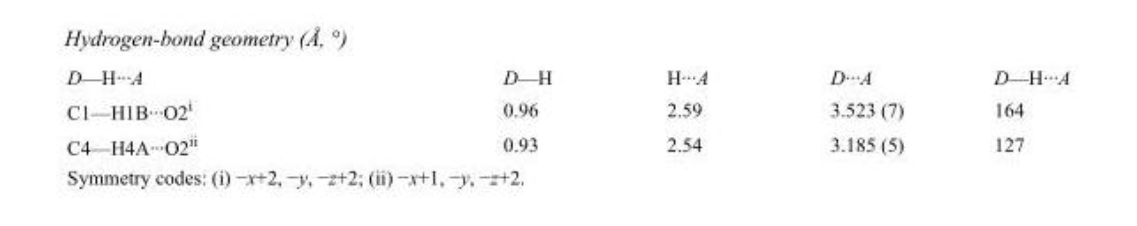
<table><tbody><tr><td>D—H···A</td><td>D—H</td><td>H···A</td><td>D···A</td><td>D—H···A</td></tr><tr><td>C1—H1B···O2<sup>i</sup></td><td>0.96</td><td>2.59</td><td>3.523 (7)</td><td>164</td></tr><tr><td>C4—H4A···O2<sup>ii</sup></td><td>0.93</td><td>2.54</td><td>3.185 (5)</td><td>127</td></tr></tbody></table>